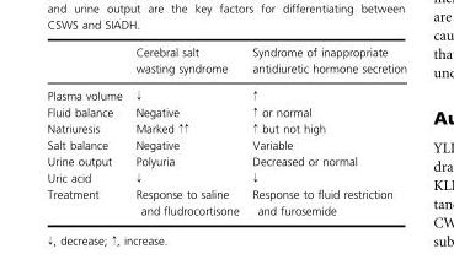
<table><thead><tr><td></td><td>Cerebral salt wasting syndrome</td><td>Syndrome of inappropriate antidiuretic hormone secretion</td></tr></thead><tbody><tr><td>Plasma volume</td><td>↓</td><td>↑</td></tr><tr><td>Fluid balance</td><td>Negative</td><td>↑ or normal</td></tr><tr><td>Natriuresis</td><td>Marked ↑↑</td><td>↑ but not high</td></tr><tr><td>Salt balance</td><td>Negative</td><td>Variable</td></tr><tr><td>Urine output</td><td>Polyuria</td><td>Decreased or normal</td></tr><tr><td>Uric acid</td><td>↓</td><td>↓</td></tr><tr><td>Treatment</td><td>Response to saline and fludrocortisone</td><td>Response to fluid restriction and furosemide</td></tr></tbody></table>